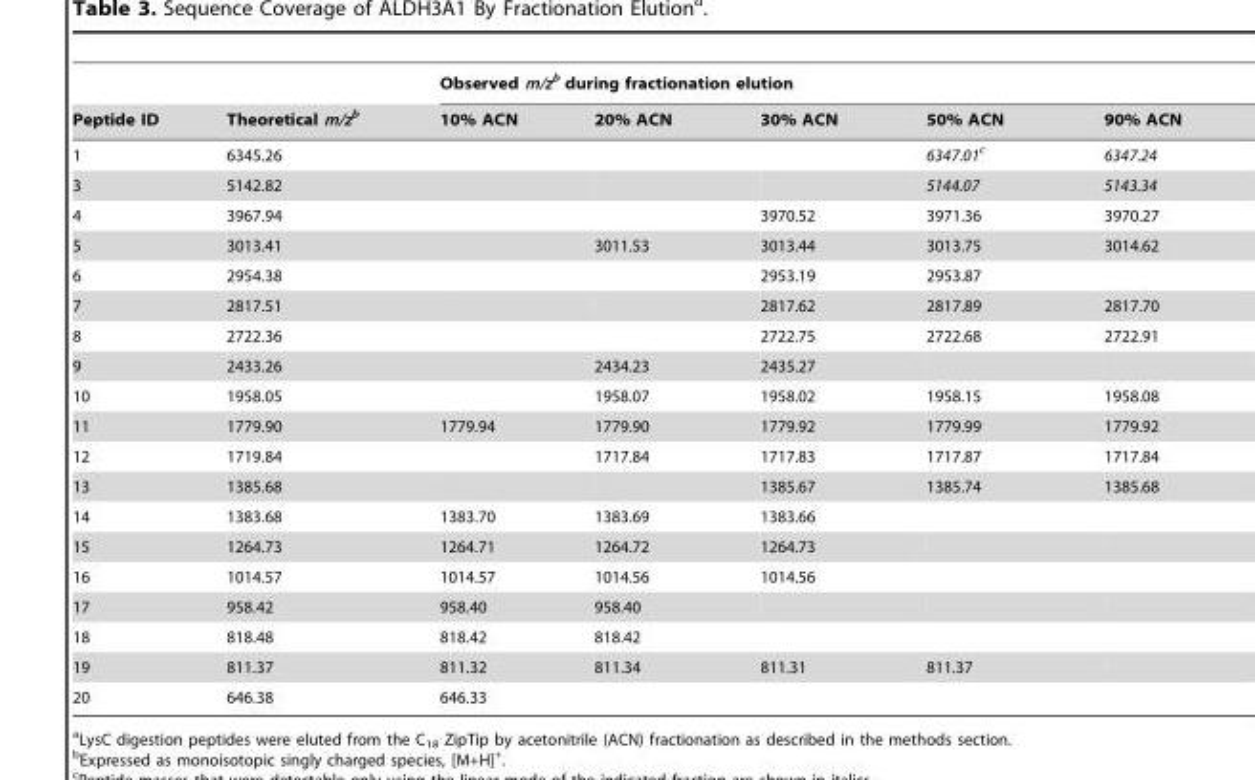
<table><thead><tr><td rowspan="2">Peptide ID</td><td rowspan="2">Theoretical m/zb</td><td colspan="5">Observed m/zb during fractionation elution</td></tr><tr><td>10% ACN</td><td>20% ACN</td><td>30% ACN</td><td>50% ACN</td><td>90% ACN</td></tr></thead><tbody><tr><td>1</td><td>6345.26</td><td></td><td></td><td></td><td>6347.01c</td><td>6347.24</td></tr><tr><td>3</td><td>5142.82</td><td></td><td></td><td></td><td>5144.07</td><td>5143.34</td></tr><tr><td>4</td><td>3967.94</td><td></td><td></td><td>3970.52</td><td>3971.36</td><td>3970.27</td></tr><tr><td>5</td><td>3013.41</td><td></td><td>3011.53</td><td>3013.44</td><td>3013.75</td><td>3014.62</td></tr><tr><td>6</td><td>2954.38</td><td></td><td></td><td>2953.19</td><td>2953.87</td><td></td></tr><tr><td>7</td><td>2817.51</td><td></td><td></td><td>2817.62</td><td>2817.89</td><td>2817.70</td></tr><tr><td>8</td><td>2722.36</td><td></td><td></td><td>2722.75</td><td>2722.68</td><td>2722.91</td></tr><tr><td>9</td><td>2433.26</td><td></td><td>2434.23</td><td>2435.27</td><td></td><td></td></tr><tr><td>10</td><td>1958.05</td><td></td><td>1958.07</td><td>1958.02</td><td>1958.15</td><td>1958.08</td></tr><tr><td>11</td><td>1779.90</td><td>1779.94</td><td>1779.90</td><td>1779.92</td><td>1779.99</td><td>1779.92</td></tr><tr><td>12</td><td>1719.84</td><td></td><td>1717.84</td><td>1717.83</td><td>1717.87</td><td>1717.84</td></tr><tr><td>13</td><td>1385.68</td><td></td><td></td><td>1385.67</td><td>1385.74</td><td>1385.68</td></tr><tr><td>14</td><td>1383.68</td><td>1383.70</td><td>1383.69</td><td>1383.66</td><td></td><td></td></tr><tr><td>15</td><td>1264.73</td><td>1264.71</td><td>1264.72</td><td>1264.73</td><td></td><td></td></tr><tr><td>16</td><td>1014.57</td><td>1014.57</td><td>1014.56</td><td>1014.56</td><td></td><td></td></tr><tr><td>17</td><td>958.42</td><td>958.40</td><td>958.40</td><td></td><td></td><td></td></tr><tr><td>18</td><td>818.48</td><td>818.42</td><td>818.42</td><td></td><td></td><td></td></tr><tr><td>19</td><td>811.37</td><td>811.32</td><td>811.34</td><td>811.31</td><td>811.37</td><td></td></tr><tr><td>20</td><td>646.38</td><td>646.33</td><td></td><td></td><td></td><td></td></tr></tbody></table>